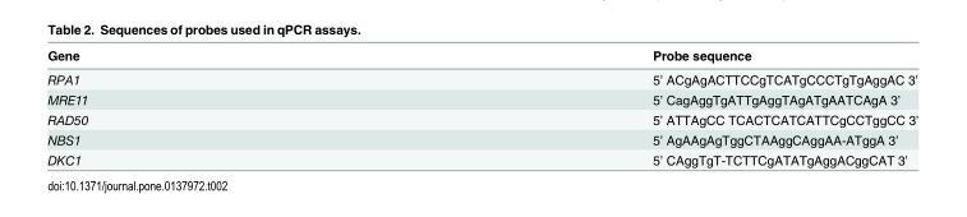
<table><thead><tr><td>Gene</td><td>Probe sequence</td></tr></thead><tbody><tr><td>RPA1</td><td>5’ ACgAgACTTCCgTCATgCCCTgTgAggAC 3’</td></tr><tr><td>MRE11</td><td>5’ CagAggTgATTgAggTAgATgAATCAgA 3’</td></tr><tr><td>RAD50</td><td>5’ ATTAgCC TCACTCATCATTCgCCTggCC 3’</td></tr><tr><td>NBS1</td><td>5’ AgAAgAgTggCTAAggCAggAA-ATggA 3’</td></tr><tr><td>DKC1</td><td>5’ CAggTgT-TCTTCgATATgAggACggCAT 3’</td></tr></tbody></table>